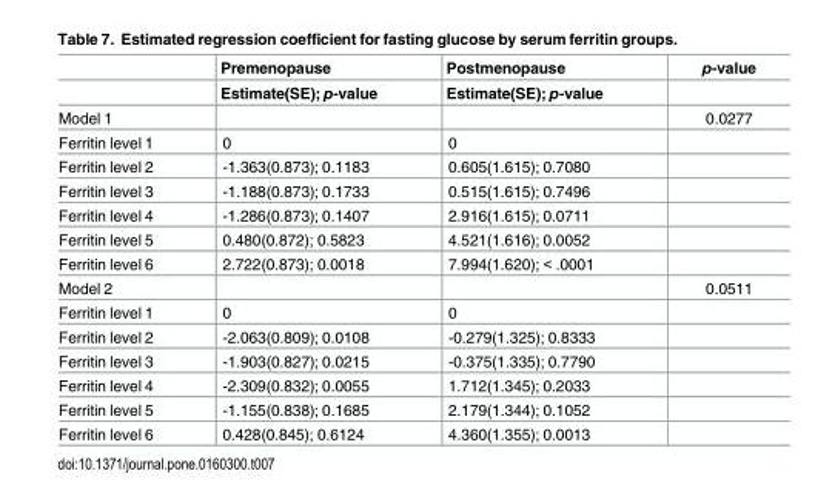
<table><thead><tr><td rowspan="2"></td><td rowspan="2">Premenopause Estimate(SE); p-value</td><td rowspan="2">Postmenopause Estimate(SE); p-value</td><td rowspan="2">p-value</td></tr><tr></tr></thead><tbody><tr><td>Model 1</td><td></td><td></td><td>0.0277</td></tr><tr><td>Ferritin level 1</td><td>0</td><td>0</td><td></td></tr><tr><td>Ferritin level 2</td><td>-1.363(0.873); 0.1183</td><td>0.605(1.615); 0.7080</td><td></td></tr><tr><td>Ferritin level 3</td><td>-1.188(0.873); 0.1733</td><td>0.515(1.615); 0.7496</td><td></td></tr><tr><td>Ferritin level 4</td><td>-1.286(0.873); 0.1407</td><td>2.916(1.615); 0.0711</td><td></td></tr><tr><td>Ferritin level 5</td><td>0.480(0.872); 0.5823</td><td>4.521(1.616); 0.0052</td><td></td></tr><tr><td>Ferritin level 6</td><td>2.722(0.873); 0.0018</td><td>7.994(1.620); &lt; .0001</td><td></td></tr><tr><td>Model 2</td><td></td><td></td><td>0.0511</td></tr><tr><td>Ferritin level 1</td><td>0</td><td>0</td><td></td></tr><tr><td>Ferritin level 2</td><td>-2.063(0.809); 0.0108</td><td>-0.279(1.325); 0.8333</td><td></td></tr><tr><td>Ferritin level 3</td><td>-1.903(0.827); 0.0215</td><td>-0.375(1.335); 0.7790</td><td></td></tr><tr><td>Ferritin level 4</td><td>-2.309(0.832); 0.0055</td><td>1.712(1.345); 0.2033</td><td></td></tr><tr><td>Ferritin level 5</td><td>-1.155(0.838); 0.1685</td><td>2.179(1.344); 0.1052</td><td></td></tr><tr><td>Ferritin level 6</td><td>0.428(0.845); 0.6124</td><td>4.360(1.355); 0.0013</td><td></td></tr></tbody></table>